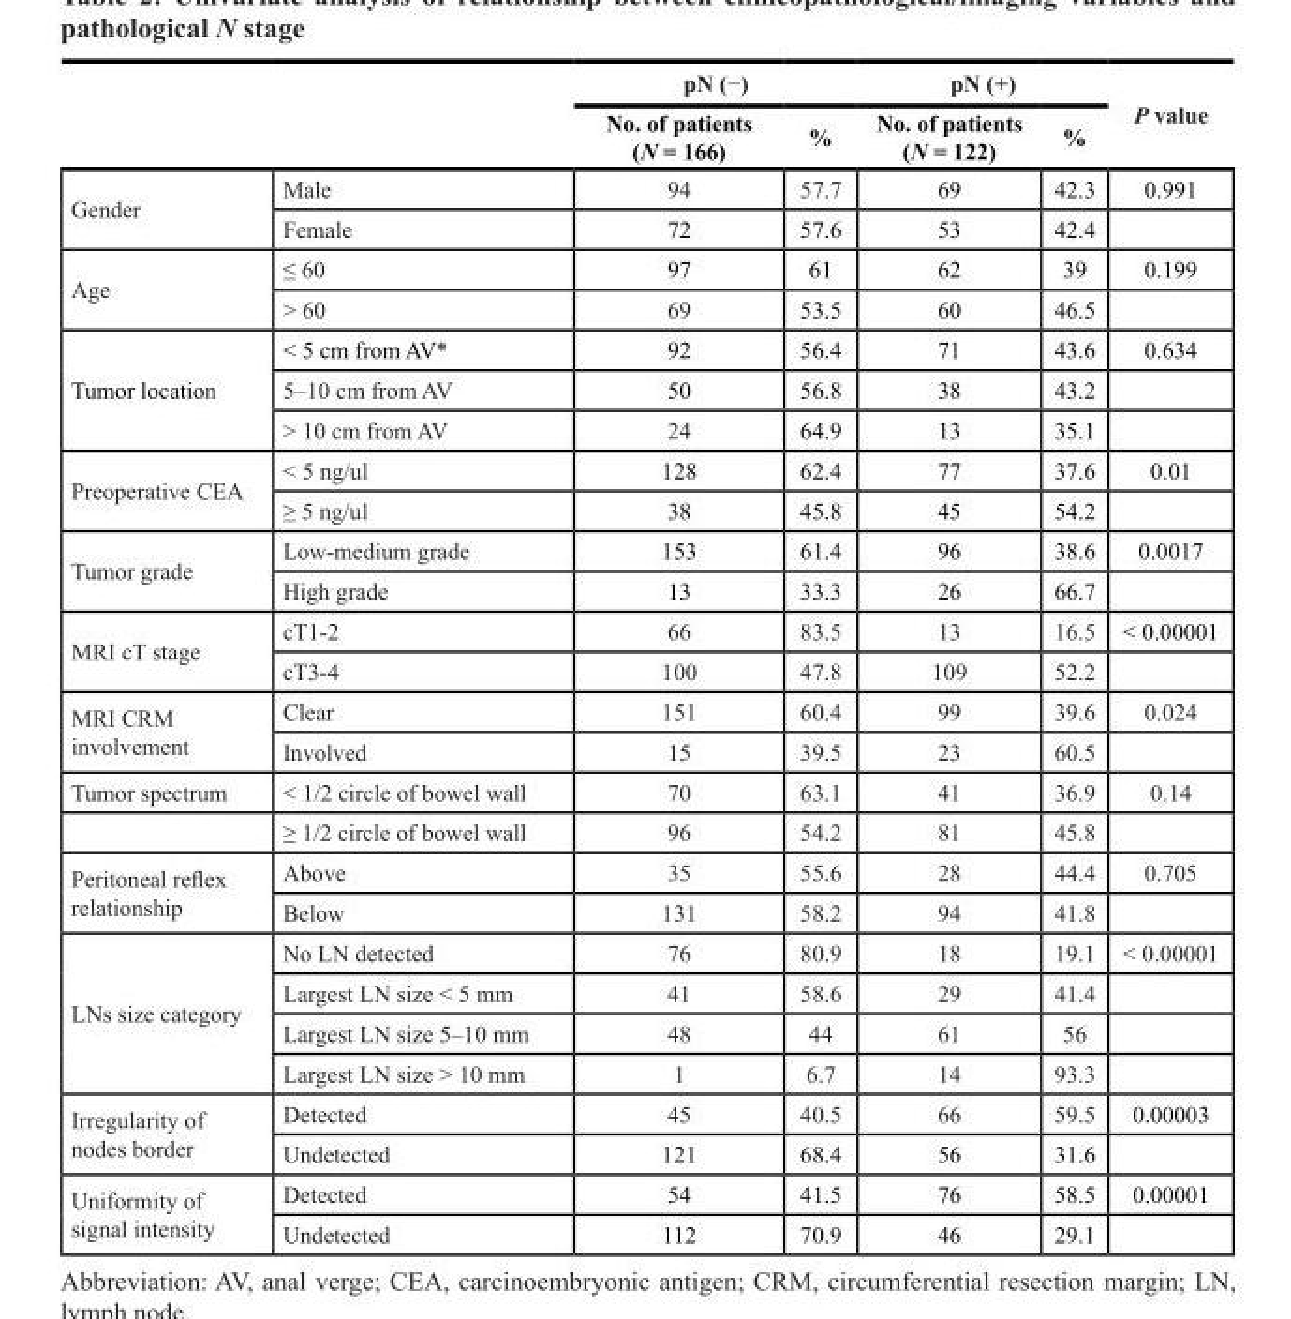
<table><thead><tr><td rowspan="2"></td><td rowspan="2"></td><td colspan="2">pN (−)</td><td colspan="2">pN (+)</td><td rowspan="2">P value</td></tr><tr><td>No. of patients (N = 166)</td><td>%</td><td>No. of patients (N = 122)</td><td>%</td></tr></thead><tbody><tr><td rowspan="2">Gender</td><td>Male</td><td>94</td><td>57.7</td><td>69</td><td>42.3</td><td>0.991</td></tr><tr><td>Female</td><td>72</td><td>57.6</td><td>53</td><td>42.4</td><td></td></tr><tr><td rowspan="2">Age</td><td>≤ 60</td><td>97</td><td>61</td><td>62</td><td>39</td><td>0.199</td></tr><tr><td>&gt; 60</td><td>69</td><td>53.5</td><td>60</td><td>46.5</td><td></td></tr><tr><td rowspan="3">Tumor location</td><td>&lt; 5 cm from AV*</td><td>92</td><td>56.4</td><td>71</td><td>43.6</td><td>0.634</td></tr><tr><td>5–10 cm from AV</td><td>50</td><td>56.8</td><td>38</td><td>43.2</td><td></td></tr><tr><td>&gt; 10 cm from AV</td><td>24</td><td>64.9</td><td>13</td><td>35.1</td><td></td></tr><tr><td rowspan="2">Preoperative CEA</td><td>&lt; 5 ng/ul</td><td>128</td><td>62.4</td><td>77</td><td>37.6</td><td>0.01</td></tr><tr><td>≥ 5 ng/ul</td><td>38</td><td>45.8</td><td>45</td><td>54.2</td><td></td></tr><tr><td rowspan="2">Tumor grade</td><td>Low-medium grade</td><td>153</td><td>61.4</td><td>96</td><td>38.6</td><td>0.0017</td></tr><tr><td>High grade</td><td>13</td><td>33.3</td><td>26</td><td>66.7</td><td></td></tr><tr><td rowspan="2">MRI cT stage</td><td>cT1-2</td><td>66</td><td>83.5</td><td>13</td><td>16.5</td><td>&lt; 0.00001</td></tr><tr><td>cT3-4</td><td>100</td><td>47.8</td><td>109</td><td>52.2</td><td></td></tr><tr><td rowspan="2">MRI CRM involvement</td><td>Clear</td><td>151</td><td>60.4</td><td>99</td><td>39.6</td><td>0.024</td></tr><tr><td>Involved</td><td>15</td><td>39.5</td><td>23</td><td>60.5</td><td></td></tr><tr><td rowspan="2">Tumor spectrum</td><td>&lt; 1/2 circle of bowel wall</td><td>70</td><td>63.1</td><td>41</td><td>36.9</td><td>0.14</td></tr><tr><td>≥ 1/2 circle of bowel wall</td><td>96</td><td>54.2</td><td>81</td><td>45.8</td><td></td></tr><tr><td rowspan="2">Peritoneal reflex relationship</td><td>Above</td><td>35</td><td>55.6</td><td>28</td><td>44.4</td><td>0.705</td></tr><tr><td>Below</td><td>131</td><td>58.2</td><td>94</td><td>41.8</td><td></td></tr><tr><td rowspan="4">LNs size category</td><td>No LN detected</td><td>76</td><td>80.9</td><td>18</td><td>19.1</td><td>&lt; 0.00001</td></tr><tr><td>Largest LN size &lt; 5 mm</td><td>41</td><td>58.6</td><td>29</td><td>41.4</td><td></td></tr><tr><td>Largest LN size 5–10 mm</td><td>48</td><td>44</td><td>61</td><td>56</td><td></td></tr><tr><td>Largest LN size &gt; 10 mm</td><td>1</td><td>6.7</td><td>14</td><td>93.3</td><td></td></tr><tr><td rowspan="2">Irregularity of nodes border</td><td>Detected</td><td>45</td><td>40.5</td><td>66</td><td>59.5</td><td>0.00003</td></tr><tr><td>Undetected</td><td>121</td><td>68.4</td><td>56</td><td>31.6</td><td></td></tr><tr><td rowspan="2">Uniformity of signal intensity</td><td>Detected</td><td>54</td><td>41.5</td><td>76</td><td>58.5</td><td>0.00001</td></tr><tr><td>Undetected</td><td>112</td><td>70.9</td><td>46</td><td>29.1</td><td></td></tr></tbody></table>